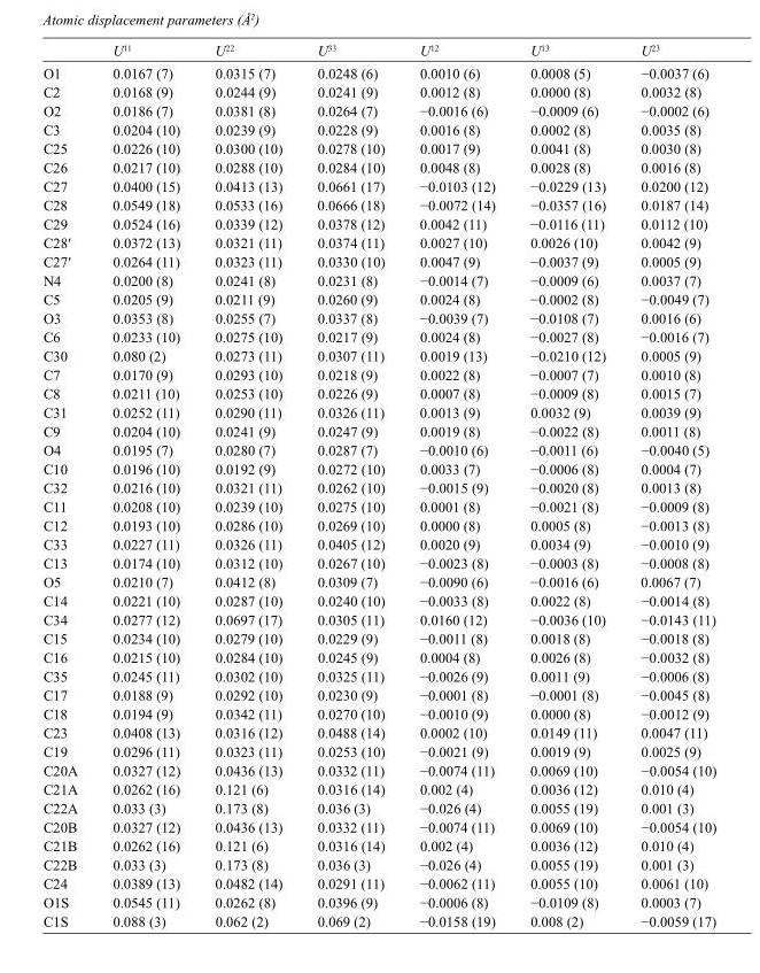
<table><thead><tr><td></td><td>U<sup>11</sup></td><td>U<sup>22</sup></td><td>U<sup>33</sup></td><td>U<sup>12</sup></td><td>U<sup>13</sup></td><td>U<sup>23</sup></td></tr></thead><tbody><tr><td>O1</td><td>0.0167 (7)</td><td>0.0315 (7)</td><td>0.0248 (6)</td><td>0.0010 (6)</td><td>0.0008 (5)</td><td>−0.0037 (6)</td></tr><tr><td>C2</td><td>0.0168 (9)</td><td>0.0244 (9)</td><td>0.0241 (9)</td><td>0.0012 (8)</td><td>0.0000 (8)</td><td>0.0032 (8)</td></tr><tr><td>O2</td><td>0.0186 (7)</td><td>0.0381 (8)</td><td>0.0264 (7)</td><td>−0.0016 (6)</td><td>−0.0009 (6)</td><td>−0.0002 (6)</td></tr><tr><td>C3</td><td>0.0204 (10)</td><td>0.0239 (9)</td><td>0.0228 (9)</td><td>0.0016 (8)</td><td>0.0002 (8)</td><td>0.0035 (8)</td></tr><tr><td>C25</td><td>0.0226 (10)</td><td>0.0300 (10)</td><td>0.0278 (10)</td><td>0.0017 (9)</td><td>0.0041 (8)</td><td>0.0030 (8)</td></tr><tr><td>C26</td><td>0.0217 (10)</td><td>0.0288 (10)</td><td>0.0284 (10)</td><td>0.0048 (8)</td><td>0.0028 (8)</td><td>0.0016 (8)</td></tr><tr><td>C27</td><td>0.0400 (15)</td><td>0.0413 (13)</td><td>0.0661 (17)</td><td>−0.0103 (12)</td><td>−0.0229 (13)</td><td>0.0200 (12)</td></tr><tr><td>C28</td><td>0.0549 (18)</td><td>0.0533 (16)</td><td>0.0666 (18)</td><td>−0.0072 (14)</td><td>−0.0357 (16)</td><td>0.0187 (14)</td></tr><tr><td>C29</td><td>0.0524 (16)</td><td>0.0339 (12)</td><td>0.0378 (12)</td><td>0.0042 (11)</td><td>−0.0116 (11)</td><td>0.0112 (10)</td></tr><tr><td>C28′</td><td>0.0372 (13)</td><td>0.0321 (11)</td><td>0.0374 (11)</td><td>0.0027 (10)</td><td>0.0026 (10)</td><td>0.0042 (9)</td></tr><tr><td>C27′</td><td>0.0264 (11)</td><td>0.0323 (11)</td><td>0.0330 (10)</td><td>0.0047 (9)</td><td>−0.0037 (9)</td><td>0.0005 (9)</td></tr><tr><td>N4</td><td>0.0200 (8)</td><td>0.0241 (8)</td><td>0.0231 (8)</td><td>−0.0014 (7)</td><td>−0.0009 (6)</td><td>0.0037 (7)</td></tr><tr><td>C5</td><td>0.0205 (9)</td><td>0.0211 (9)</td><td>0.0260 (9)</td><td>0.0024 (8)</td><td>−0.0002 (8)</td><td>−0.0049 (7)</td></tr><tr><td>O3</td><td>0.0353 (8)</td><td>0.0255 (7)</td><td>0.0337 (8)</td><td>−0.0039 (7)</td><td>−0.0108 (7)</td><td>0.0016 (6)</td></tr><tr><td>C6</td><td>0.0233 (10)</td><td>0.0275 (10)</td><td>0.0217 (9)</td><td>0.0024 (8)</td><td>−0.0027 (8)</td><td>−0.0016 (7)</td></tr><tr><td>C30</td><td>0.080 (2)</td><td>0.0273 (11)</td><td>0.0307 (11)</td><td>0.0019 (13)</td><td>−0.0210 (12)</td><td>0.0005 (9)</td></tr><tr><td>C7</td><td>0.0170 (9)</td><td>0.0293 (10)</td><td>0.0218 (9)</td><td>0.0022 (8)</td><td>−0.0007 (7)</td><td>0.0010 (8)</td></tr><tr><td>C8</td><td>0.0211 (10)</td><td>0.0253 (10)</td><td>0.0226 (9)</td><td>0.0007 (8)</td><td>−0.0009 (8)</td><td>0.0015 (7)</td></tr><tr><td>C31</td><td>0.0252 (11)</td><td>0.0290 (11)</td><td>0.0326 (11)</td><td>0.0013 (9)</td><td>0.0032 (9)</td><td>0.0039 (9)</td></tr><tr><td>C9</td><td>0.0204 (10)</td><td>0.0241 (9)</td><td>0.0247 (9)</td><td>0.0019 (8)</td><td>−0.0022 (8)</td><td>0.0011 (8)</td></tr><tr><td>O4</td><td>0.0195 (7)</td><td>0.0280 (7)</td><td>0.0287 (7)</td><td>−0.0010 (6)</td><td>−0.0011 (6)</td><td>−0.0040 (5)</td></tr><tr><td>C10</td><td>0.0196 (10)</td><td>0.0192 (9)</td><td>0.0272 (10)</td><td>0.0033 (7)</td><td>−0.0006 (8)</td><td>0.0004 (7)</td></tr><tr><td>C32</td><td>0.0216 (10)</td><td>0.0321 (11)</td><td>0.0262 (10)</td><td>−0.0015 (9)</td><td>−0.0020 (8)</td><td>0.0013 (8)</td></tr><tr><td>C11</td><td>0.0208 (10)</td><td>0.0239 (10)</td><td>0.0275 (10)</td><td>0.0001 (8)</td><td>−0.0021 (8)</td><td>−0.0009 (8)</td></tr><tr><td>C12</td><td>0.0193 (10)</td><td>0.0286 (10)</td><td>0.0269 (10)</td><td>0.0000 (8)</td><td>0.0005 (8)</td><td>−0.0013 (8)</td></tr><tr><td>C33</td><td>0.0227 (11)</td><td>0.0326 (11)</td><td>0.0405 (12)</td><td>0.0020 (9)</td><td>0.0034 (9)</td><td>−0.0010 (9)</td></tr><tr><td>C13</td><td>0.0174 (10)</td><td>0.0312 (10)</td><td>0.0267 (10)</td><td>−0.0023 (8)</td><td>−0.0003 (8)</td><td>−0.0008 (8)</td></tr><tr><td>O5</td><td>0.0210 (7)</td><td>0.0412 (8)</td><td>0.0309 (7)</td><td>−0.0090 (6)</td><td>−0.0016 (6)</td><td>0.0067 (7)</td></tr><tr><td>C14</td><td>0.0221 (10)</td><td>0.0287 (10)</td><td>0.0240 (10)</td><td>−0.0033 (8)</td><td>0.0022 (8)</td><td>−0.0014 (8)</td></tr><tr><td>C34</td><td>0.0277 (12)</td><td>0.0697 (17)</td><td>0.0305 (11)</td><td>0.0160 (12)</td><td>−0.0036 (10)</td><td>−0.0143 (11)</td></tr><tr><td>C15</td><td>0.0234 (10)</td><td>0.0279 (10)</td><td>0.0229 (9)</td><td>−0.0011 (8)</td><td>0.0018 (8)</td><td>−0.0018 (8)</td></tr><tr><td>C16</td><td>0.0215 (10)</td><td>0.0284 (10)</td><td>0.0245 (9)</td><td>0.0004 (8)</td><td>0.0026 (8)</td><td>−0.0032 (8)</td></tr><tr><td>C35</td><td>0.0245 (11)</td><td>0.0302 (10)</td><td>0.0325 (11)</td><td>−0.0026 (9)</td><td>0.0011 (9)</td><td>−0.0006 (8)</td></tr><tr><td>C17</td><td>0.0188 (9)</td><td>0.0292 (10)</td><td>0.0230 (9)</td><td>−0.0001 (8)</td><td>−0.0001 (8)</td><td>−0.0045 (8)</td></tr><tr><td>C18</td><td>0.0194 (9)</td><td>0.0342 (11)</td><td>0.0270 (10)</td><td>−0.0010 (9)</td><td>0.0000 (8)</td><td>−0.0012 (9)</td></tr><tr><td>C23</td><td>0.0408 (13)</td><td>0.0316 (12)</td><td>0.0488 (14)</td><td>0.0002 (10)</td><td>0.0149 (11)</td><td>0.0047 (11)</td></tr><tr><td>C19</td><td>0.0296 (11)</td><td>0.0323 (11)</td><td>0.0253 (10)</td><td>−0.0021 (9)</td><td>0.0019 (9)</td><td>0.0025 (9)</td></tr><tr><td>C20A</td><td>0.0327 (12)</td><td>0.0436 (13)</td><td>0.0332 (11)</td><td>−0.0074 (11)</td><td>0.0069 (10)</td><td>−0.0054 (10)</td></tr><tr><td>C21A</td><td>0.0262 (16)</td><td>0.121 (6)</td><td>0.0316 (14)</td><td>0.002 (4)</td><td>0.0036 (12)</td><td>0.010 (4)</td></tr><tr><td>C22A</td><td>0.033 (3)</td><td>0.173 (8)</td><td>0.036 (3)</td><td>−0.026 (4)</td><td>0.0055 (19)</td><td>0.001 (3)</td></tr><tr><td>C20B</td><td>0.0327 (12)</td><td>0.0436 (13)</td><td>0.0332 (11)</td><td>−0.0074 (11)</td><td>0.0069 (10)</td><td>−0.0054 (10)</td></tr><tr><td>C21B</td><td>0.0262 (16)</td><td>0.121 (6)</td><td>0.0316 (14)</td><td>0.002 (4)</td><td>0.0036 (12)</td><td>0.010 (4)</td></tr><tr><td>C22B</td><td>0.033 (3)</td><td>0.173 (8)</td><td>0.036 (3)</td><td>−0.026 (4)</td><td>0.0055 (19)</td><td>0.001 (3)</td></tr><tr><td>C24</td><td>0.0389 (13)</td><td>0.0482 (14)</td><td>0.0291 (11)</td><td>−0.0062 (11)</td><td>0.0055 (10)</td><td>0.0061 (10)</td></tr><tr><td>O1S</td><td>0.0545 (11)</td><td>0.0262 (8)</td><td>0.0396 (9)</td><td>−0.0006 (8)</td><td>−0.0109 (8)</td><td>0.0003 (7)</td></tr><tr><td>C1S</td><td>0.088 (3)</td><td>0.062 (2)</td><td>0.069 (2)</td><td>−0.0158 (19)</td><td>0.008 (2)</td><td>−0.0059 (17)</td></tr></tbody></table>